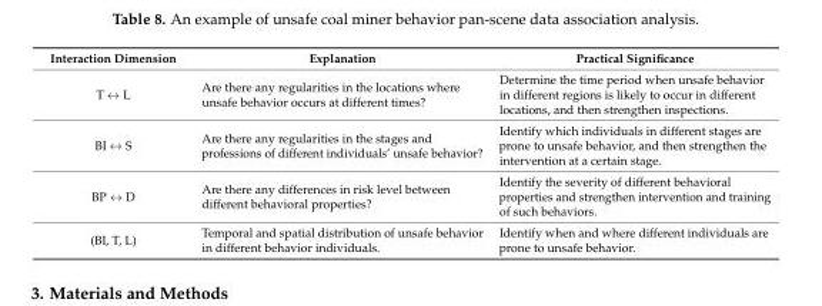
<table><thead><tr><td>Interaction Dimension</td><td>Explanation</td><td>Practical Significance</td></tr></thead><tbody><tr><td>T ↔ L</td><td>Are there any regularities in the locations where unsafe behavior occurs at different times?</td><td>Determine the time period when unsafe behavior in different regions is likely to occur in different locations, and then strengthen inspections.</td></tr><tr><td>BI ↔ S</td><td>Are there any regularities in the stages and professions of different individuals’ unsafe behavior?</td><td>Identify which individuals in different stages are prone to unsafe behavior, and then strengthen the intervention at a certain stage.</td></tr><tr><td>BP ↔ D</td><td>Are there any differences in risk level between different behavioral properties?</td><td>Identify the severity of different behavioral properties and strengthen intervention and training of such behaviors.</td></tr><tr><td>(BI, T, L)</td><td>Temporal and spatial distribution of unsafe behavior in different behavior individuals.</td><td>Identify when and where different individuals are prone to unsafe behavior.</td></tr></tbody></table>